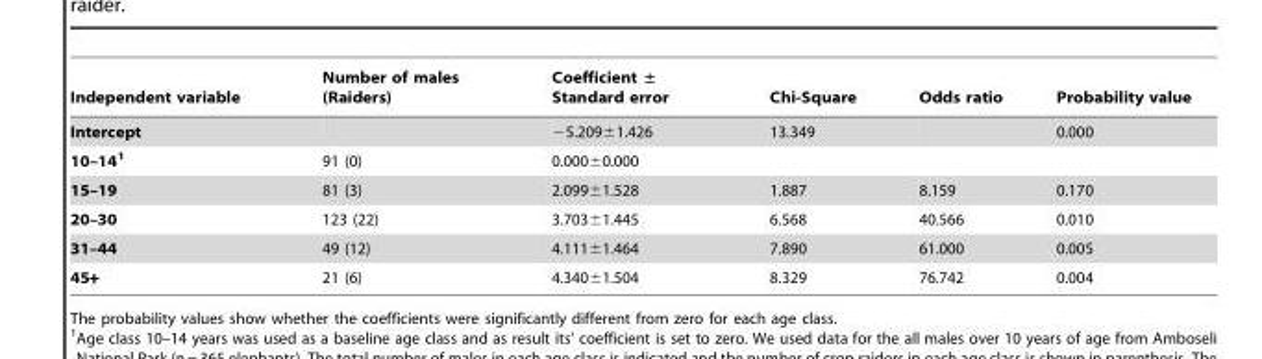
<table><thead><tr><td>Independent variable</td><td>Number of males (Raiders)</td><td>Coefficient ± Standard error</td><td>Chi-Square</td><td>Odds ratio</td><td>Probability value</td></tr></thead><tbody><tr><td>Intercept</td><td></td><td>−5.209±1.426</td><td>13.349</td><td></td><td>0.000</td></tr><tr><td>10–141</td><td>91 (0)</td><td>0.000±0.000</td><td></td><td></td><td></td></tr><tr><td>15–19</td><td>81 (3)</td><td>2.099±1.528</td><td>1.887</td><td>8.159</td><td>0.170</td></tr><tr><td>20–30</td><td>123 (22)</td><td>3.703±1.445</td><td>6.568</td><td>40.566</td><td>0.010</td></tr><tr><td>31–44</td><td>49 (12)</td><td>4.111±1.464</td><td>7.890</td><td>61.000</td><td>0.005</td></tr><tr><td>45+</td><td>21 (6)</td><td>4.340±1.504</td><td>8.329</td><td>76.742</td><td>0.004</td></tr></tbody></table>